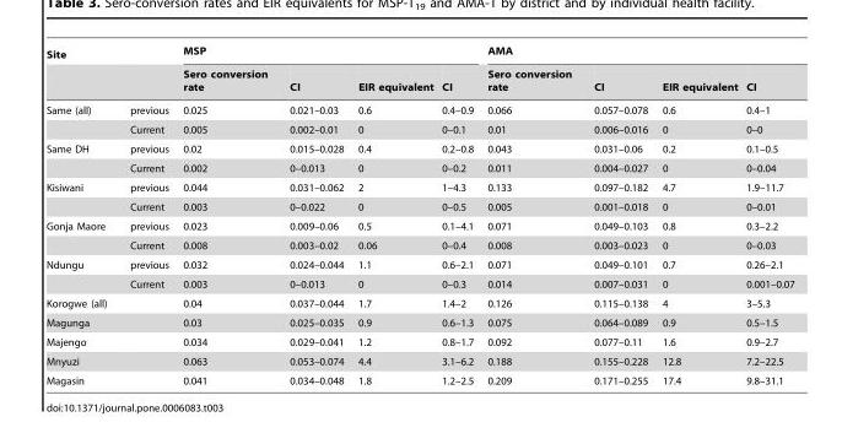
<table><thead><tr><td rowspan="2">Site</td><td rowspan="2"></td><td colspan="4">MSP</td><td colspan="4">AMA</td></tr><tr><td>Sero conversion rate</td><td>CI</td><td>EIR equivalent</td><td>CI</td><td>Sero conversion rate</td><td>CI</td><td>EIR equivalent</td><td>CI</td></tr></thead><tbody><tr><td rowspan="2">Same (all)</td><td>previous</td><td>0.025</td><td>0.021–0.03</td><td>0.6</td><td>0.4–0.9</td><td>0.066</td><td>0.057–0.078</td><td>0.6</td><td>0.4–1</td></tr><tr><td>Current</td><td>0.005</td><td>0.002–0.01</td><td>0</td><td>0–0.1</td><td>0.01</td><td>0.006–0.016</td><td>0</td><td>0–0</td></tr><tr><td rowspan="2">Same DH</td><td>previous</td><td>0.02</td><td>0.015–0.028</td><td>0.4</td><td>0.2–0.8</td><td>0.043</td><td>0.031–0.06</td><td>0.2</td><td>0.1–0.5</td></tr><tr><td>Current</td><td>0.002</td><td>0–0.013</td><td>0</td><td>0–0.2</td><td>0.011</td><td>0.004–0.027</td><td>0</td><td>0–0.04</td></tr><tr><td rowspan="2">Kisiwani</td><td>previous</td><td>0.044</td><td>0.031–0.062</td><td>2</td><td>1–4.3</td><td>0.133</td><td>0.097–0.182</td><td>4.7</td><td>1.9–11.7</td></tr><tr><td>Current</td><td>0.003</td><td>0–0.022</td><td>0</td><td>0–0.5</td><td>0.005</td><td>0.001–0.018</td><td>0</td><td>0–0.01</td></tr><tr><td rowspan="2">Gonja Maore</td><td>previous</td><td>0.023</td><td>0.009–0.06</td><td>0.5</td><td>0.1–4.1</td><td>0.071</td><td>0.049–0.103</td><td>0.8</td><td>0.3–2.2</td></tr><tr><td>Current</td><td>0.008</td><td>0.003–0.02</td><td>0.06</td><td>0–0.4</td><td>0.008</td><td>0.003–0.023</td><td>0</td><td>0–0.03</td></tr><tr><td rowspan="2">Ndungu</td><td>previous</td><td>0.032</td><td>0.024–0.044</td><td>1.1</td><td>0.6–2.1</td><td>0.071</td><td>0.049–0.101</td><td>0.7</td><td>0.26–2.1</td></tr><tr><td>Current</td><td>0.003</td><td>0–0.013</td><td>0</td><td>0–0.3</td><td>0.014</td><td>0.007–0.031</td><td>0</td><td>0.001–0.07</td></tr><tr><td>Korogwe (all)</td><td></td><td>0.04</td><td>0.037–0.044</td><td>1.7</td><td>1.4–2</td><td>0.126</td><td>0.115–0.138</td><td>4</td><td>3–5.3</td></tr><tr><td>Magunga</td><td></td><td>0.03</td><td>0.025–0.035</td><td>0.9</td><td>0.6–1.3</td><td>0.075</td><td>0.064–0.089</td><td>0.9</td><td>0.5–1.5</td></tr><tr><td>Majengo</td><td></td><td>0.034</td><td>0.029–0.041</td><td>1.2</td><td>0.8–1.7</td><td>0.092</td><td>0.077–0.11</td><td>1.6</td><td>0.9–2.7</td></tr><tr><td>Mnyuzi</td><td></td><td>0.063</td><td>0.053–0.074</td><td>4.4</td><td>3.1–6.2</td><td>0.188</td><td>0.155–0.228</td><td>12.8</td><td>7.2–22.5</td></tr><tr><td>Magasin</td><td></td><td>0.041</td><td>0.034–0.048</td><td>1.8</td><td>1.2–2.5</td><td>0.209</td><td>0.171–0.255</td><td>17.4</td><td>9.8–31.1</td></tr></tbody></table>